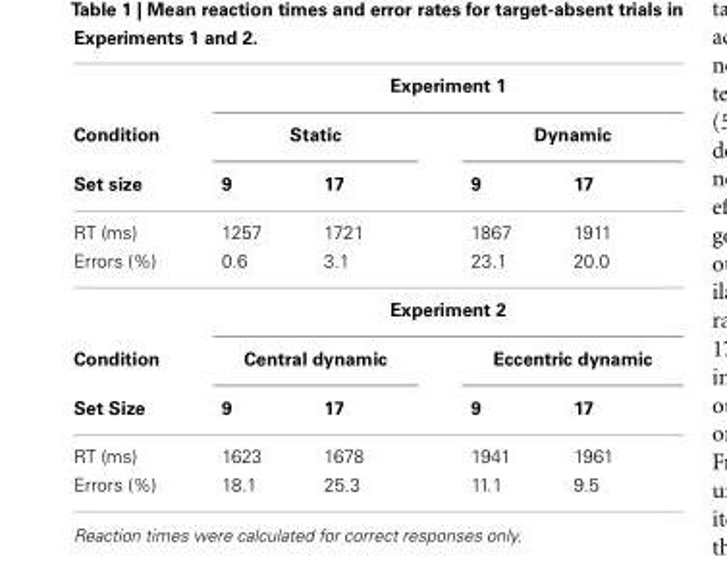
<table><thead><tr><td rowspan="3">Condition Set size</td><td colspan="4">Experiment 1</td></tr><tr><td colspan="2">Static</td><td colspan="2">Dynamic</td></tr><tr><td>9</td><td>17</td><td>9</td><td>17</td></tr></thead><tbody><tr><td>RT (ms)</td><td>1257</td><td>1721</td><td>1867</td><td>1911</td></tr><tr><td>Errors (%)</td><td>0.6</td><td>3.1</td><td>23.1</td><td>20.0</td></tr><tr><td colspan="5">Experiment 2</td></tr><tr><td>Condition</td><td colspan="2">Central dynamic</td><td colspan="2">Eccentric dynamic</td></tr><tr><td>Set Size</td><td>9</td><td>17</td><td>9</td><td>17</td></tr><tr><td>RT (ms)</td><td>1623</td><td>1678</td><td>1941</td><td>1961</td></tr><tr><td>Errors (%)</td><td>18.1</td><td>25.3</td><td>11.1</td><td>9.5</td></tr></tbody></table>